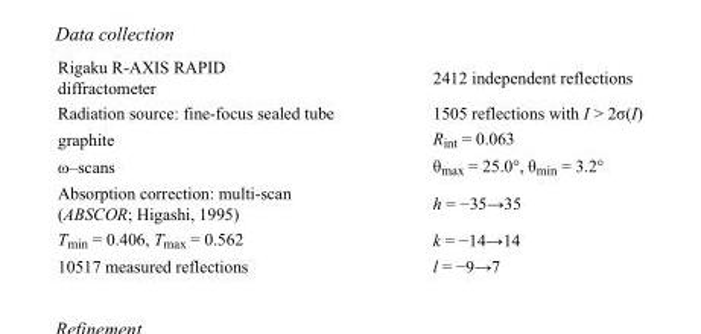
<table><tbody><tr><td>Rigaku R-AXIS RAPID diffractometer</td><td>2412 independent reflections</td></tr><tr><td>Radiation source: fine-focus sealed tube</td><td>1505 reflections with I &gt; 2σ(I)</td></tr><tr><td>graphite</td><td>R<sub>int</sub> = 0.063</td></tr><tr><td>ω–scans</td><td>θ<sub>max</sub> = 25.0°, θ<sub>min</sub> = 3.2°</td></tr><tr><td>Absorption correction: multi-scan (ABSCOR; Higashi, 1995)</td><td>h = −35→35</td></tr><tr><td>T<sub>min</sub> = 0.406, T<sub>max</sub> = 0.562</td><td>k = −14→14</td></tr><tr><td>10517 measured reflections</td><td>l = −9→7</td></tr></tbody></table>